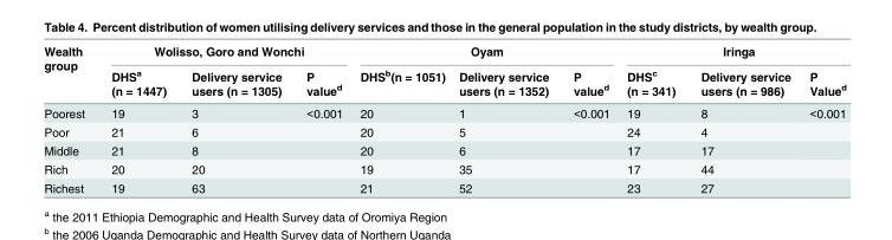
<table><thead><tr><td rowspan="2">Wealth group</td><td colspan="3">Wolisso, Goro and Wonchi</td><td colspan="3">Oyam</td><td colspan="3">Iringa</td></tr><tr><td>DHS<sup>a</sup> (n = 1447)</td><td>Delivery service users (n = 1305)</td><td>P value<sup>d</sup></td><td>DHS<sup>b</sup>(n = 1051)</td><td>Delivery service users (n = 1352)</td><td>P value<sup>d</sup></td><td>DHS<sup>c</sup> (n = 341)</td><td>Delivery service users (n = 986)</td><td>P Value<sup>d</sup></td></tr></thead><tbody><tr><td>Poorest</td><td>19</td><td>3</td><td>&lt;0.001</td><td>20</td><td>1</td><td>&lt;0.001</td><td>19</td><td>8</td><td>&lt;0.001</td></tr><tr><td>Poor</td><td>21</td><td>6</td><td></td><td>20</td><td>5</td><td></td><td>24</td><td>4</td><td></td></tr><tr><td>Middle</td><td>21</td><td>8</td><td></td><td>20</td><td>6</td><td></td><td>17</td><td>17</td><td></td></tr><tr><td>Rich</td><td>20</td><td>20</td><td></td><td>19</td><td>35</td><td></td><td>17</td><td>44</td><td></td></tr><tr><td>Richest</td><td>19</td><td>63</td><td></td><td>21</td><td>52</td><td></td><td>23</td><td>27</td><td></td></tr></tbody></table>